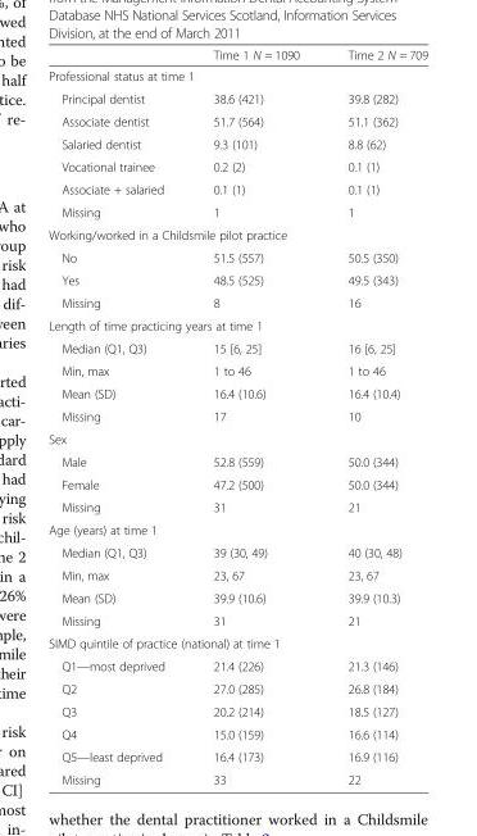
<table><thead><tr><td></td><td>Time 1 N = 1090</td><td>Time 2 N = 709</td></tr></thead><tbody><tr><td colspan="3">Professional status at time 1</td></tr><tr><td>Principal dentist</td><td>38.6 (421)</td><td>39.8 (282)</td></tr><tr><td>Associate dentist</td><td>51.7 (564)</td><td>51.1 (362)</td></tr><tr><td>Salaried dentist</td><td>9.3 (101)</td><td>8.8 (62)</td></tr><tr><td>Vocational trainee</td><td>0.2 (2)</td><td>0.1 (1)</td></tr><tr><td>Associate + salaried</td><td>0.1 (1)</td><td>0.1 (1)</td></tr><tr><td>Missing</td><td>1</td><td>1</td></tr><tr><td colspan="3">Working/worked in a Childsmile pilot practice</td></tr><tr><td>No</td><td>51.5 (557)</td><td>50.5 (350)</td></tr><tr><td>Yes</td><td>48.5 (525)</td><td>49.5 (343)</td></tr><tr><td>Missing</td><td>8</td><td>16</td></tr><tr><td colspan="3">Length of time practicing years at time 1</td></tr><tr><td>Median (Q1, Q3)</td><td>15 [6, 25]</td><td>16 [6, 25]</td></tr><tr><td>Min, max</td><td>1 to 46</td><td>1 to 46</td></tr><tr><td>Mean (SD)</td><td>16.4 (10.6)</td><td>16.4 (10.4)</td></tr><tr><td>Missing</td><td>17</td><td>10</td></tr><tr><td colspan="3">Sex</td></tr><tr><td>Male</td><td>52.8 (559)</td><td>50.0 (344)</td></tr><tr><td>Female</td><td>47.2 (500)</td><td>50.0 (344)</td></tr><tr><td>Missing</td><td>31</td><td>21</td></tr><tr><td colspan="3">Age (years) at time 1</td></tr><tr><td>Median (Q1, Q3)</td><td>39 (30, 49)</td><td>40 (30, 48)</td></tr><tr><td>Min, max</td><td>23, 67</td><td>23, 67</td></tr><tr><td>Mean (SD)</td><td>39.9 (10.6)</td><td>39.9 (10.3)</td></tr><tr><td>Missing</td><td>31</td><td>21</td></tr><tr><td colspan="3">SIMD quintile of practice (national) at time 1</td></tr><tr><td>Q1—most deprived</td><td>21.4 (226)</td><td>21.3 (146)</td></tr><tr><td>Q2</td><td>27.0 (285)</td><td>26.8 (184)</td></tr><tr><td>Q3</td><td>20.2 (214)</td><td>18.5 (127)</td></tr><tr><td>Q4</td><td>15.0 (159)</td><td>16.6 (114)</td></tr><tr><td>Q5—least deprived</td><td>16.4 (173)</td><td>16.9 (116)</td></tr><tr><td>Missing</td><td>33</td><td>22</td></tr></tbody></table>